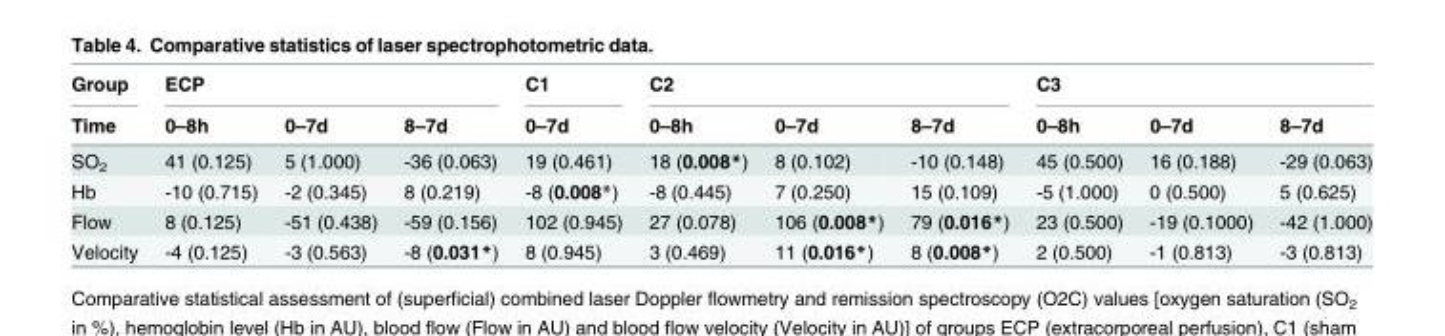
<table><thead><tr><td rowspan="2">Group Time</td><td colspan="3">ECP</td><td rowspan="2">C1 0–7d</td><td colspan="3">C2</td><td colspan="3">C3</td></tr><tr><td>0–8h</td><td>0–7d</td><td>8–7d</td><td>0–8h</td><td>0–7d</td><td>8–7d</td><td>0–8h</td><td>0–7d</td><td>8–7d</td></tr></thead><tbody><tr><td>SO<sub>2</sub></td><td>41 (0.125)</td><td>5 (1.000)</td><td>-36 (0.063)</td><td>19 (0.461)</td><td>18 (0.008*)</td><td>8 (0.102)</td><td>-10 (0.148)</td><td>45 (0.500)</td><td>16 (0.188)</td><td>-29 (0.063)</td></tr><tr><td>Hb</td><td>-10 (0.715)</td><td>-2 (0.345)</td><td>8 (0.219)</td><td>-8 (0.008*)</td><td>-8 (0.445)</td><td>7 (0.250)</td><td>15 (0.109)</td><td>-5 (1.000)</td><td>0 (0.500)</td><td>5 (0.625)</td></tr><tr><td>Flow</td><td>8 (0.125)</td><td>-51 (0.438)</td><td>-59 (0.156)</td><td>102 (0.945)</td><td>27 (0.078)</td><td>106 (0.008*)</td><td>79 (0.016*)</td><td>23 (0.500)</td><td>-19 (0.1000)</td><td>-42 (1.000)</td></tr><tr><td>Velocity</td><td>-4 (0.125)</td><td>-3 (0.563)</td><td>-8 (0.031*)</td><td>8 (0.945)</td><td>3 (0.469)</td><td>11 (0.016*)</td><td>8 (0.008*)</td><td>2 (0.500)</td><td>-1 (0.813)</td><td>-3 (0.813)</td></tr></tbody></table>